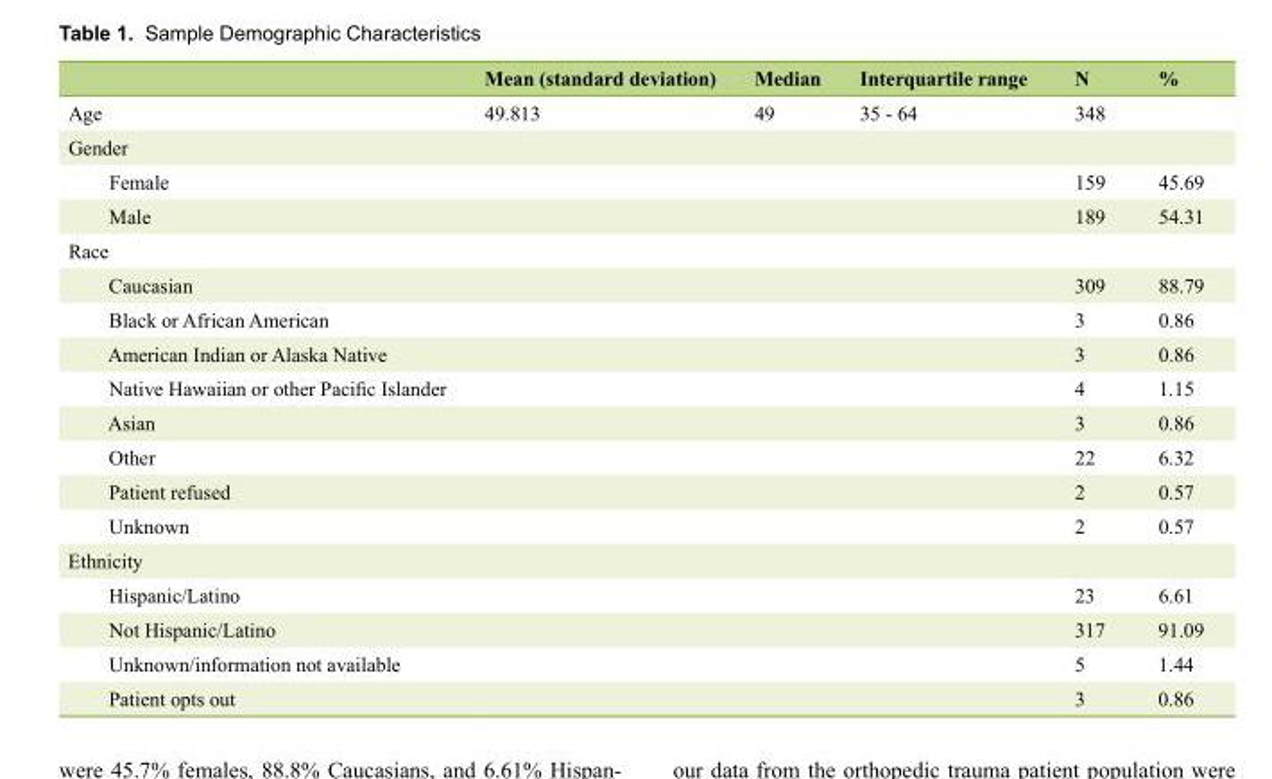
<table><thead><tr><td></td><td>Mean (standard deviation)</td><td>Median</td><td>Interquartile range</td><td>N</td><td>%</td></tr></thead><tbody><tr><td>Age</td><td>49.813</td><td>49</td><td>35 - 64</td><td>348</td><td></td></tr><tr><td colspan="6">Gender</td></tr><tr><td>Female</td><td></td><td></td><td></td><td>159</td><td>45.69</td></tr><tr><td>Male</td><td></td><td></td><td></td><td>189</td><td>54.31</td></tr><tr><td colspan="6">Race</td></tr><tr><td>Caucasian</td><td></td><td></td><td></td><td>309</td><td>88.79</td></tr><tr><td>Black or African American</td><td></td><td></td><td></td><td>3</td><td>0.86</td></tr><tr><td>American Indian or Alaska Native</td><td></td><td></td><td></td><td>3</td><td>0.86</td></tr><tr><td>Native Hawaiian or other Pacific Islander</td><td></td><td></td><td></td><td>4</td><td>1.15</td></tr><tr><td>Asian</td><td></td><td></td><td></td><td>3</td><td>0.86</td></tr><tr><td>Other</td><td></td><td></td><td></td><td>22</td><td>6.32</td></tr><tr><td>Patient refused</td><td></td><td></td><td></td><td>2</td><td>0.57</td></tr><tr><td>Unknown</td><td></td><td></td><td></td><td>2</td><td>0.57</td></tr><tr><td colspan="6">Ethnicity</td></tr><tr><td>Hispanic/Latino</td><td></td><td></td><td></td><td>23</td><td>6.61</td></tr><tr><td>Not Hispanic/Latino</td><td></td><td></td><td></td><td>317</td><td>91.09</td></tr><tr><td>Unknown/information not available</td><td></td><td></td><td></td><td>5</td><td>1.44</td></tr><tr><td>Patient opts out</td><td></td><td></td><td></td><td>3</td><td>0.86</td></tr></tbody></table>